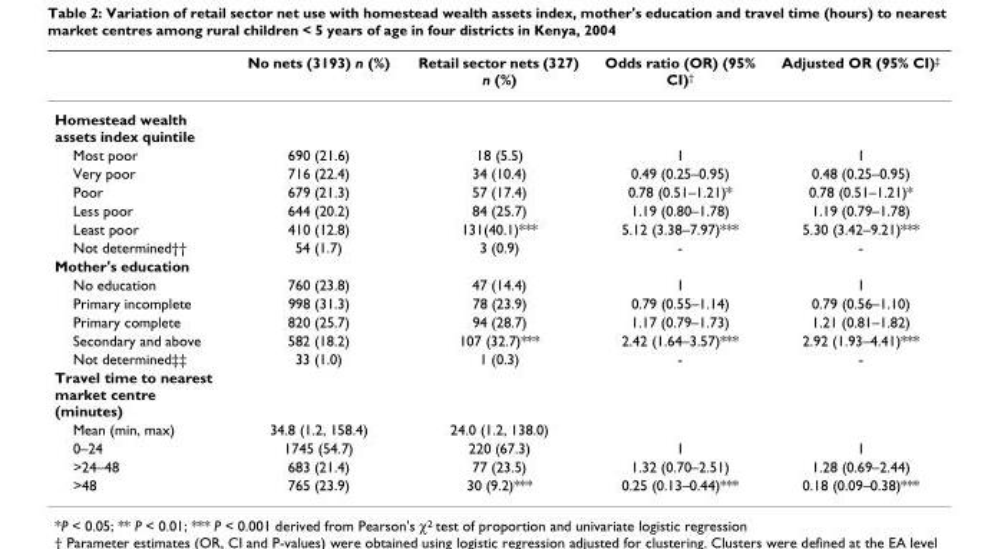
<table><thead><tr><td></td><td>No nets (3193) n (%)</td><td>Retail sector nets (327) n (%)</td><td>Odds ratio (OR) (95% CI)<sup>†</sup></td><td>Adjusted OR (95% CI)<sup>‡</sup></td></tr></thead><tbody><tr><td colspan="5">Homestead wealth assets index quintile</td></tr><tr><td>Most poor</td><td>690 (21.6)</td><td>18 (5.5)</td><td>1</td><td>1</td></tr><tr><td>Very poor</td><td>716 (22.4)</td><td>34 (10.4)</td><td>0.49 (0.25–0.95)</td><td>0.48 (0.25–0.95)</td></tr><tr><td>Poor</td><td>679 (21.3)</td><td>57 (17.4)</td><td>0.78 (0.51–1.21)*</td><td>0.78 (0.51–1.21)*</td></tr><tr><td>Less poor</td><td>644 (20.2)</td><td>84 (25.7)</td><td>1.19 (0.80–1.78)</td><td>1.19 (0.79–1.78)</td></tr><tr><td>Least poor</td><td>410 (12.8)</td><td>131(40.1)***</td><td>5.12 (3.38–7.97)***</td><td>5.30 (3.42–9.21)***</td></tr><tr><td>Not determined††</td><td>54 (1.7)</td><td>3 (0.9)</td><td>-</td><td>-</td></tr><tr><td colspan="5">Mother&#x27;s education</td></tr><tr><td>No education</td><td>760 (23.8)</td><td>47 (14.4)</td><td>1</td><td>1</td></tr><tr><td>Primary incomplete</td><td>998 (31.3)</td><td>78 (23.9)</td><td>0.79 (0.55–1.14)</td><td>0.79 (0.56–1.10)</td></tr><tr><td>Primary complete</td><td>820 (25.7)</td><td>94 (28.7)</td><td>1.17 (0.79–1.73)</td><td>1.21 (0.81–1.82)</td></tr><tr><td>Secondary and above</td><td>582 (18.2)</td><td>107 (32.7)***</td><td>2.42 (1.64–3.57)***</td><td>2.92 (1.93–4.41)***</td></tr><tr><td>Not determined‡‡</td><td>33 (1.0)</td><td>1 (0.3)</td><td>-</td><td>-</td></tr><tr><td colspan="5">Travel time to nearest market centre (minutes)</td></tr><tr><td>Mean (min, max)</td><td>34.8 (1.2, 158.4)</td><td>24.0 (1.2, 138.0)</td><td></td><td></td></tr><tr><td>0–24</td><td>1745 (54.7)</td><td>220 (67.3)</td><td>1</td><td>1</td></tr><tr><td>&gt;24–48</td><td>683 (21.4)</td><td>77 (23.5)</td><td>1.32 (0.70–2.51)</td><td>1.28 (0.69–2.44)</td></tr><tr><td>&gt;48</td><td>765 (23.9)</td><td>30 (9.2)***</td><td>0.25 (0.13–0.44)***</td><td>0.18 (0.09–0.38)***</td></tr></tbody></table>